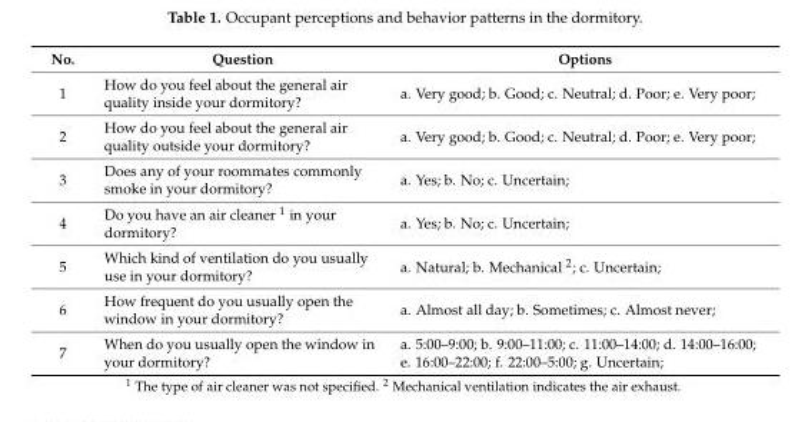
<table><thead><tr><td>No.</td><td>Question</td><td>Options</td></tr></thead><tbody><tr><td>1</td><td>How do you feel about the general air quality inside your dormitory?</td><td>a. Very good; b. Good; c. Neutral; d. Poor; e. Very poor;</td></tr><tr><td>2</td><td>How do you feel about the general air quality outside your dormitory?</td><td>a. Very good; b. Good; c. Neutral; d. Poor; e. Very poor;</td></tr><tr><td>3</td><td>Does any of your roommates commonly smoke in your dormitory?</td><td>a. Yes; b. No; c. Uncertain;</td></tr><tr><td>4</td><td>Do you have an air cleaner <sup>1</sup> in your dormitory?</td><td>a. Yes; b. No; c. Uncertain;</td></tr><tr><td>5</td><td>Which kind of ventilation do you usually use in your dormitory?</td><td>a. Natural; b. Mechanical <sup>2</sup>; c. Uncertain;</td></tr><tr><td>6</td><td>How frequent do you usually open the window in your dormitory?</td><td>a. Almost all day; b. Sometimes; c. Almost never;</td></tr><tr><td>7</td><td>When do you usually open the window in your dormitory?</td><td>a. 5:00–9:00; b. 9:00–11:00; c. 11:00–14:00; d. 14:00–16:00; e. 16:00–22:00; f. 22:00–5:00; g. Uncertain;</td></tr></tbody></table>